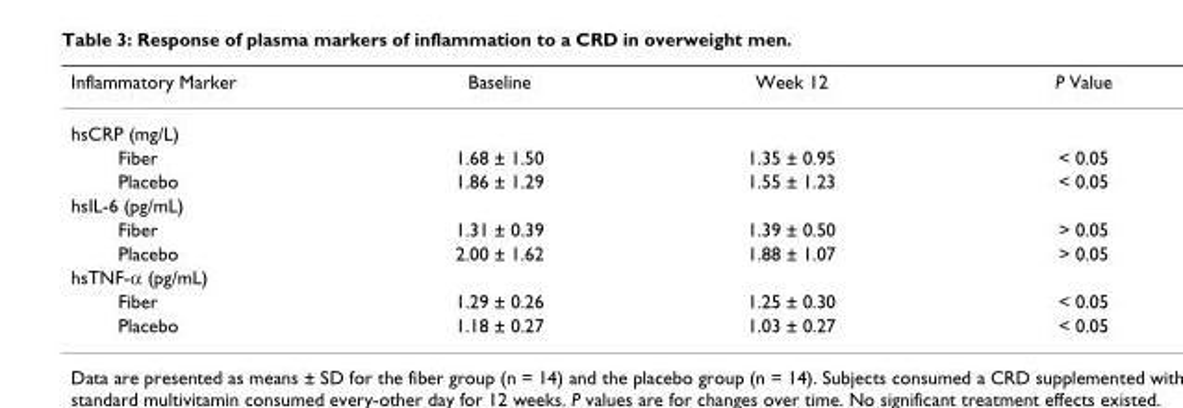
<table><thead><tr><td>Inflammatory Marker</td><td>Baseline</td><td>Week 12</td><td>P Value</td></tr></thead><tbody><tr><td colspan="4">hsCRP (mg/L)</td></tr><tr><td>Fiber</td><td>1.68 ± 1.50</td><td>1.35 ± 0.95</td><td>&lt; 0.05</td></tr><tr><td>Placebo</td><td>1.86 ± 1.29</td><td>1.55 ± 1.23</td><td>&lt; 0.05</td></tr><tr><td colspan="4">hsIL-6 (pg/mL)</td></tr><tr><td>Fiber</td><td>1.31 ± 0.39</td><td>1.39 ± 0.50</td><td>&gt; 0.05</td></tr><tr><td>Placebo</td><td>2.00 ± 1.62</td><td>1.88 ± 1.07</td><td>&gt; 0.05</td></tr><tr><td colspan="4">hsTNF-α (pg/mL)</td></tr><tr><td>Fiber</td><td>1.29 ± 0.26</td><td>1.25 ± 0.30</td><td>&lt; 0.05</td></tr><tr><td>Placebo</td><td>1.18 ± 0.27</td><td>1.03 ± 0.27</td><td>&lt; 0.05</td></tr></tbody></table>